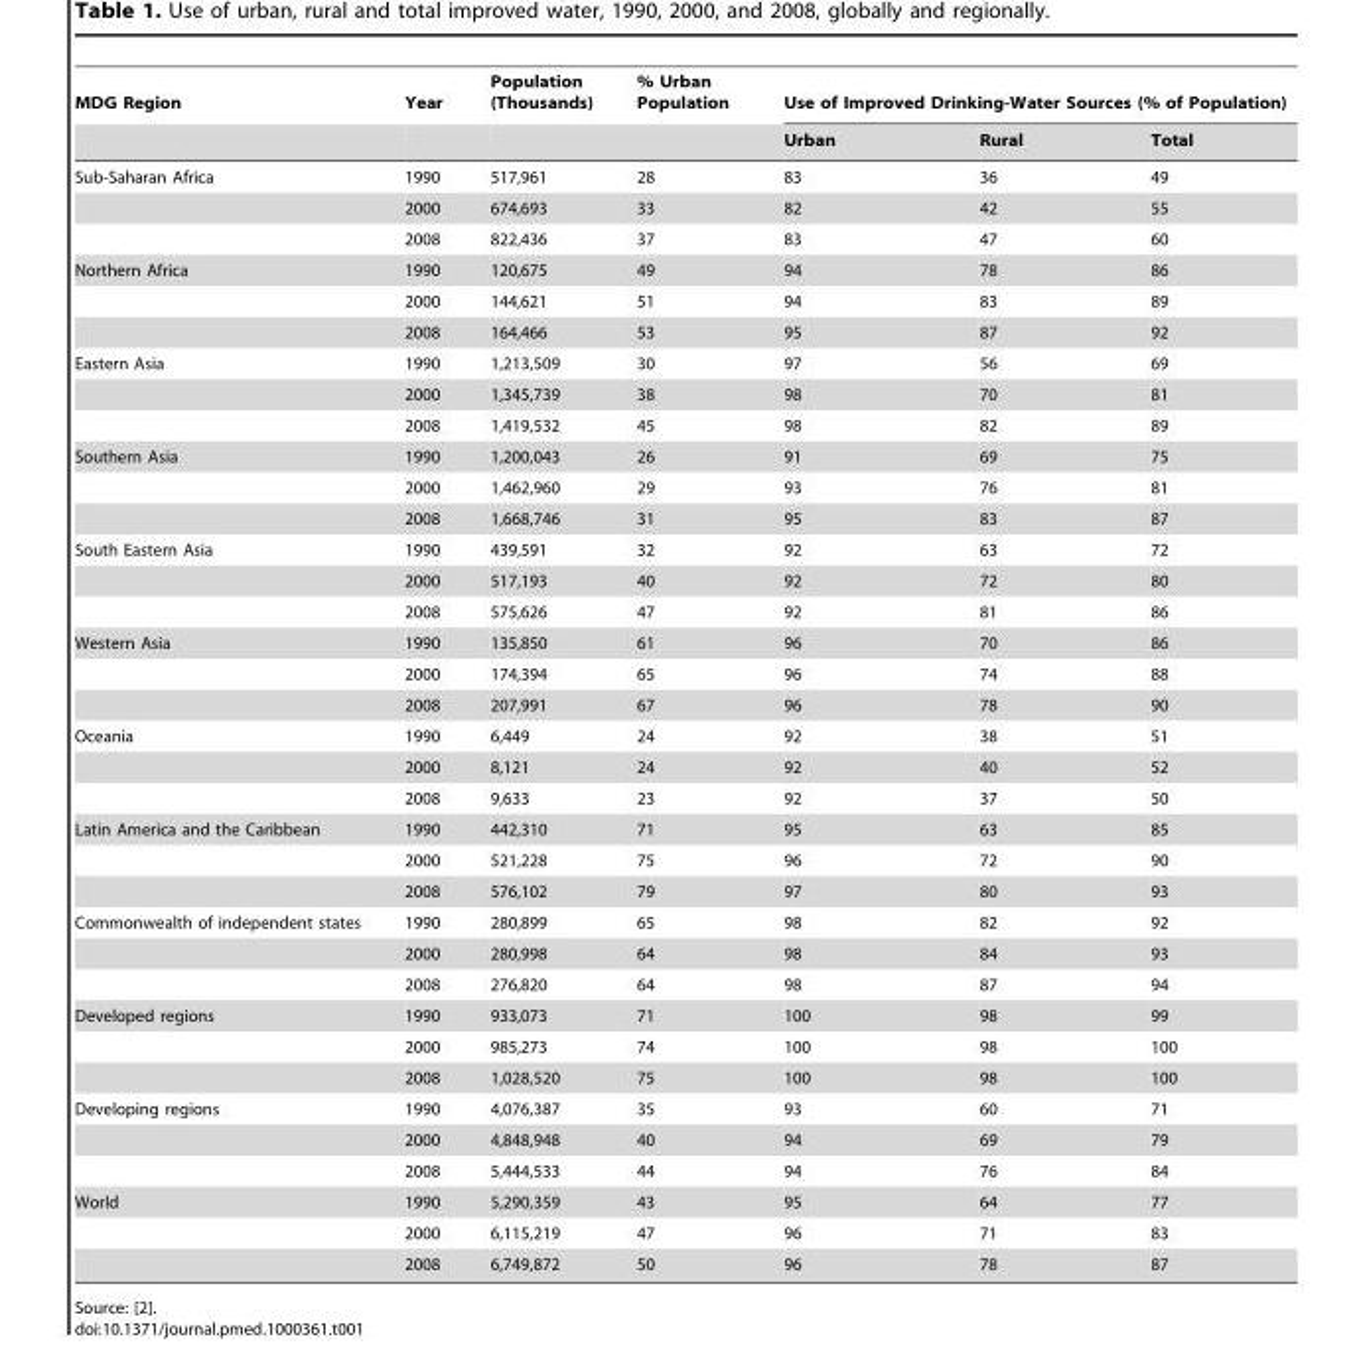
<table><thead><tr><td rowspan="2">MDG Region</td><td rowspan="2">Year</td><td rowspan="2">Population (Thousands)</td><td rowspan="2">% Urban Population</td><td colspan="3">Use of Improved Drinking-Water Sources (% of Population)</td></tr><tr><td>Urban</td><td>Rural</td><td>Total</td></tr></thead><tbody><tr><td rowspan="3">Sub-Saharan Africa</td><td>1990</td><td>517,961</td><td>28</td><td>83</td><td>36</td><td>49</td></tr><tr><td>2000</td><td>674,693</td><td>33</td><td>82</td><td>42</td><td>55</td></tr><tr><td>2008</td><td>822,436</td><td>37</td><td>83</td><td>47</td><td>60</td></tr><tr><td rowspan="3">Northern Africa</td><td>1990</td><td>120,675</td><td>49</td><td>94</td><td>78</td><td>86</td></tr><tr><td>2000</td><td>144,621</td><td>51</td><td>94</td><td>83</td><td>89</td></tr><tr><td>2008</td><td>164,466</td><td>53</td><td>95</td><td>87</td><td>92</td></tr><tr><td rowspan="3">Eastern Asia</td><td>1990</td><td>1,213,509</td><td>30</td><td>97</td><td>56</td><td>69</td></tr><tr><td>2000</td><td>1,345,739</td><td>38</td><td>98</td><td>70</td><td>81</td></tr><tr><td>2008</td><td>1,419,532</td><td>45</td><td>98</td><td>82</td><td>89</td></tr><tr><td rowspan="3">Southern Asia</td><td>1990</td><td>1,200,043</td><td>26</td><td>91</td><td>69</td><td>75</td></tr><tr><td>2000</td><td>1,462,960</td><td>29</td><td>93</td><td>76</td><td>81</td></tr><tr><td>2008</td><td>1,668,746</td><td>31</td><td>95</td><td>83</td><td>87</td></tr><tr><td rowspan="3">South Eastern Asia</td><td>1990</td><td>439,591</td><td>32</td><td>92</td><td>63</td><td>72</td></tr><tr><td>2000</td><td>517,193</td><td>40</td><td>92</td><td>72</td><td>80</td></tr><tr><td>2008</td><td>575,626</td><td>47</td><td>92</td><td>81</td><td>86</td></tr><tr><td rowspan="3">Western Asia</td><td>1990</td><td>135,850</td><td>61</td><td>96</td><td>70</td><td>86</td></tr><tr><td>2000</td><td>174,394</td><td>65</td><td>96</td><td>74</td><td>88</td></tr><tr><td>2008</td><td>207,991</td><td>67</td><td>96</td><td>78</td><td>90</td></tr><tr><td rowspan="3">Oceania</td><td>1990</td><td>6,449</td><td>24</td><td>92</td><td>38</td><td>51</td></tr><tr><td>2000</td><td>8,121</td><td>24</td><td>92</td><td>40</td><td>52</td></tr><tr><td>2008</td><td>9,633</td><td>23</td><td>92</td><td>37</td><td>50</td></tr><tr><td rowspan="3">Latin America and the Caribbean</td><td>1990</td><td>442,310</td><td>71</td><td>95</td><td>63</td><td>85</td></tr><tr><td>2000</td><td>521,228</td><td>75</td><td>96</td><td>72</td><td>90</td></tr><tr><td>2008</td><td>576,102</td><td>79</td><td>97</td><td>80</td><td>93</td></tr><tr><td rowspan="3">Commonwealth of independent states</td><td>1990</td><td>280,899</td><td>65</td><td>98</td><td>82</td><td>92</td></tr><tr><td>2000</td><td>280,998</td><td>64</td><td>98</td><td>84</td><td>93</td></tr><tr><td>2008</td><td>276,820</td><td>64</td><td>98</td><td>87</td><td>94</td></tr><tr><td rowspan="3">Developed regions</td><td>1990</td><td>933,073</td><td>71</td><td>100</td><td>98</td><td>99</td></tr><tr><td>2000</td><td>985,273</td><td>74</td><td>100</td><td>98</td><td>100</td></tr><tr><td>2008</td><td>1,028,520</td><td>75</td><td>100</td><td>98</td><td>100</td></tr><tr><td rowspan="3">Developing regions</td><td>1990</td><td>4,076,387</td><td>35</td><td>93</td><td>60</td><td>71</td></tr><tr><td>2000</td><td>4,848,948</td><td>40</td><td>94</td><td>69</td><td>79</td></tr><tr><td>2008</td><td>5,444,533</td><td>44</td><td>94</td><td>76</td><td>84</td></tr><tr><td rowspan="3">World</td><td>1990</td><td>5,290,359</td><td>43</td><td>95</td><td>64</td><td>77</td></tr><tr><td>2000</td><td>6,115,219</td><td>47</td><td>96</td><td>71</td><td>83</td></tr><tr><td>2008</td><td>6,749,872</td><td>50</td><td>96</td><td>78</td><td>87</td></tr></tbody></table>